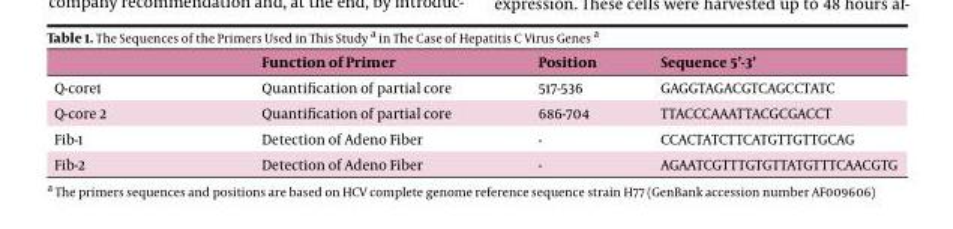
<table><thead><tr><td></td><td>Function of Primer</td><td>Position</td><td>Sequence 5’-3’</td></tr></thead><tbody><tr><td>Q-core1</td><td>Quantification of partial core</td><td>517-536</td><td>GAGGTAGACGTCAGCCTATC</td></tr><tr><td>Q-core 2</td><td>Quantification of partial core</td><td>686-704</td><td>TTACCCAAATTACGCGACCT</td></tr><tr><td>Fib-1</td><td>Detection of Adeno Fiber</td><td>-</td><td>CCACTATCTTCATGTTGTTGCAG</td></tr><tr><td>Fib-2</td><td>Detection of Adeno Fiber</td><td>-</td><td>AGAATCGTTTGTGTTATGTTTCAACGTG</td></tr></tbody></table>